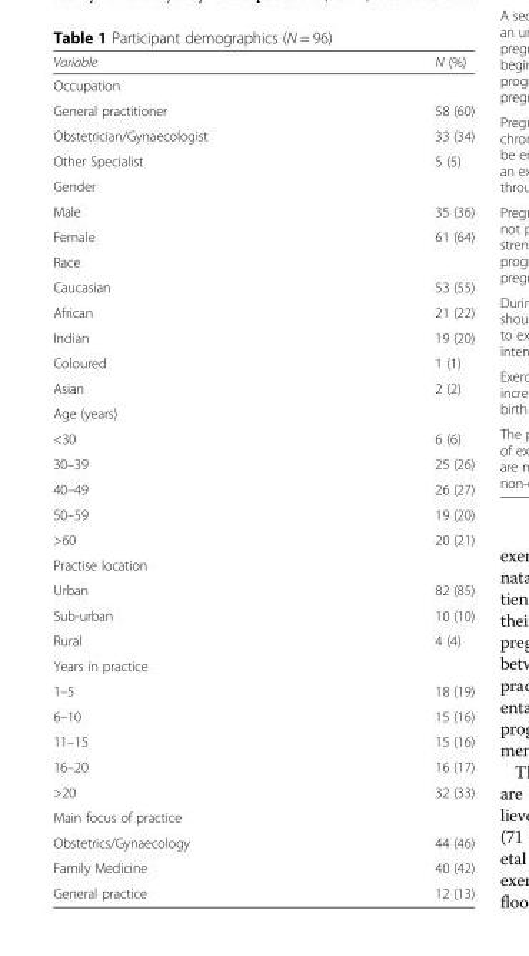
<table><thead><tr><td>Variable</td><td>N (%)</td></tr></thead><tbody><tr><td colspan="2">Occupation</td></tr><tr><td>General practitioner</td><td>58 (60)</td></tr><tr><td>Obstetrician/Gynaecologist</td><td>33 (34)</td></tr><tr><td>Other Specialist</td><td>5 (5)</td></tr><tr><td colspan="2">Gender</td></tr><tr><td>Male</td><td>35 (36)</td></tr><tr><td>Female</td><td>61 (64)</td></tr><tr><td colspan="2">Race</td></tr><tr><td>Caucasian</td><td>53 (55)</td></tr><tr><td>African</td><td>21 (22)</td></tr><tr><td>Indian</td><td>19 (20)</td></tr><tr><td>Coloured</td><td>1 (1)</td></tr><tr><td>Asian</td><td>2 (2)</td></tr><tr><td colspan="2">Age (years)</td></tr><tr><td>&lt;30</td><td>6 (6)</td></tr><tr><td>30–39</td><td>25 (26)</td></tr><tr><td>40–49</td><td>26 (27)</td></tr><tr><td>50–59</td><td>19 (20)</td></tr><tr><td>&gt;60</td><td>20 (21)</td></tr><tr><td colspan="2">Practise location</td></tr><tr><td>Urban</td><td>82 (85)</td></tr><tr><td>Sub-urban</td><td>10 (10)</td></tr><tr><td>Rural</td><td>4 (4)</td></tr><tr><td colspan="2">Years in practice</td></tr><tr><td>1–5</td><td>18 (19)</td></tr><tr><td>6–10</td><td>15 (16)</td></tr><tr><td>11–15</td><td>15 (16)</td></tr><tr><td>16–20</td><td>16 (17)</td></tr><tr><td>&gt;20</td><td>32 (33)</td></tr><tr><td colspan="2">Main focus of practice</td></tr><tr><td>Obstetrics/Gynaecology</td><td>44 (46)</td></tr><tr><td>Family Medicine</td><td>40 (42)</td></tr><tr><td>General practice</td><td>12 (13)</td></tr></tbody></table>